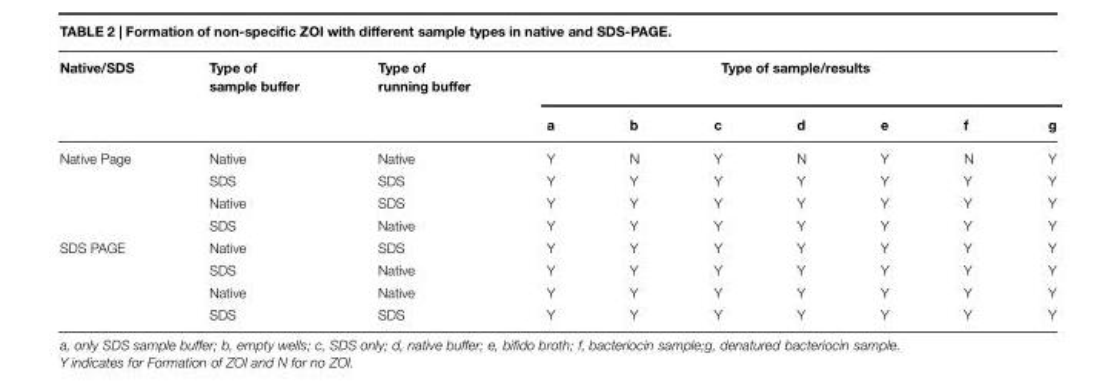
<table><thead><tr><td rowspan="2">Native/SDS</td><td rowspan="2">Type of sample buffer</td><td rowspan="2">Type of running buffer</td><td colspan="7">Type of sample/results</td></tr><tr><td>a</td><td>b</td><td>c</td><td>d</td><td>e</td><td>f</td><td>g</td></tr></thead><tbody><tr><td rowspan="4">Native Page</td><td>Native</td><td>Native</td><td>Y</td><td>N</td><td>Y</td><td>N</td><td>Y</td><td>N</td><td>Y</td></tr><tr><td>SDS</td><td>SDS</td><td>Y</td><td>Y</td><td>Y</td><td>Y</td><td>Y</td><td>Y</td><td>Y</td></tr><tr><td>Native</td><td>SDS</td><td>Y</td><td>Y</td><td>Y</td><td>Y</td><td>Y</td><td>Y</td><td>Y</td></tr><tr><td>SDS</td><td>Native</td><td>Y</td><td>Y</td><td>Y</td><td>Y</td><td>Y</td><td>Y</td><td>Y</td></tr><tr><td rowspan="4">SDS PAGE</td><td>Native</td><td>SDS</td><td>Y</td><td>Y</td><td>Y</td><td>Y</td><td>Y</td><td>Y</td><td>Y</td></tr><tr><td>SDS</td><td>Native</td><td>Y</td><td>Y</td><td>Y</td><td>Y</td><td>Y</td><td>Y</td><td>Y</td></tr><tr><td>Native</td><td>Native</td><td>Y</td><td>Y</td><td>Y</td><td>Y</td><td>Y</td><td>Y</td><td>Y</td></tr><tr><td>SDS</td><td>SDS</td><td>Y</td><td>Y</td><td>Y</td><td>Y</td><td>Y</td><td>Y</td><td>Y</td></tr></tbody></table>